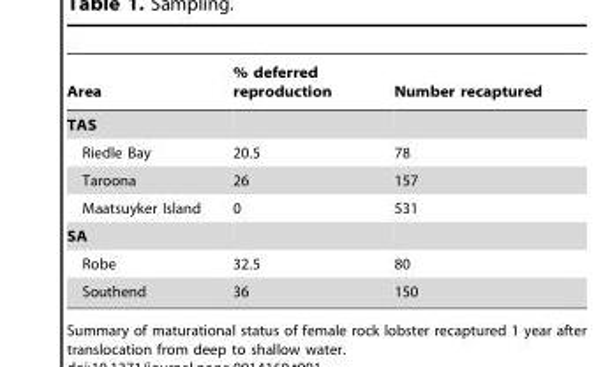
<table><thead><tr><td>Area</td><td>% deferred reproduction</td><td>Number recaptured</td></tr></thead><tbody><tr><td colspan="3">TAS</td></tr><tr><td>Riedle Bay</td><td>20.5</td><td>78</td></tr><tr><td>Taroona</td><td>26</td><td>157</td></tr><tr><td>Maatsuyker Island</td><td>0</td><td>531</td></tr><tr><td colspan="3">SA</td></tr><tr><td>Robe</td><td>32.5</td><td>80</td></tr><tr><td>Southend</td><td>36</td><td>150</td></tr></tbody></table>